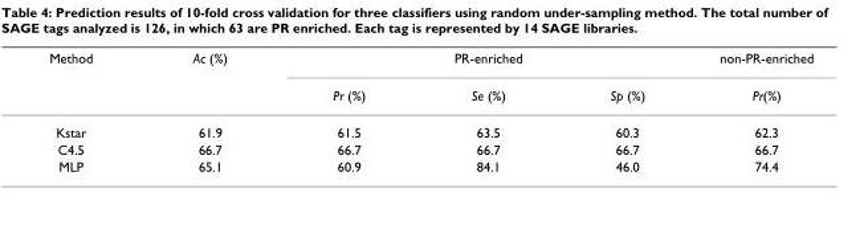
<table><thead><tr><td rowspan="2">Method</td><td rowspan="2">Ac (%)</td><td colspan="3">PR-enriched</td><td rowspan="2">non-PR-enriched Pr(%)</td></tr><tr><td>Pr (%)</td><td>Se (%)</td><td>Sp (%)</td></tr></thead><tbody><tr><td>Kstar</td><td>61.9</td><td>61.5</td><td>63.5</td><td>60.3</td><td>62.3</td></tr><tr><td>C4.5</td><td>66.7</td><td>66.7</td><td>66.7</td><td>66.7</td><td>66.7</td></tr><tr><td>MLP</td><td>65.1</td><td>60.9</td><td>84.1</td><td>46.0</td><td>74.4</td></tr></tbody></table>